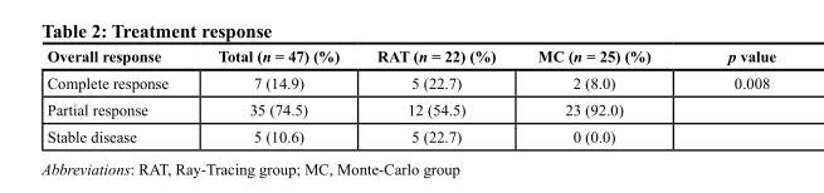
<table><thead><tr><td>Overall response</td><td>Total (n = 47) (%)</td><td>RAT (n = 22) (%)</td><td>MC (n = 25) (%)</td><td>p value</td></tr></thead><tbody><tr><td>Complete response</td><td>7 (14.9)</td><td>5 (22.7)</td><td>2 (8.0)</td><td>0.008</td></tr><tr><td>Partial response</td><td>35 (74.5)</td><td>12 (54.5)</td><td>23 (92.0)</td><td></td></tr><tr><td>Stable disease</td><td>5 (10.6)</td><td>5 (22.7)</td><td>0 (0.0)</td><td></td></tr></tbody></table>